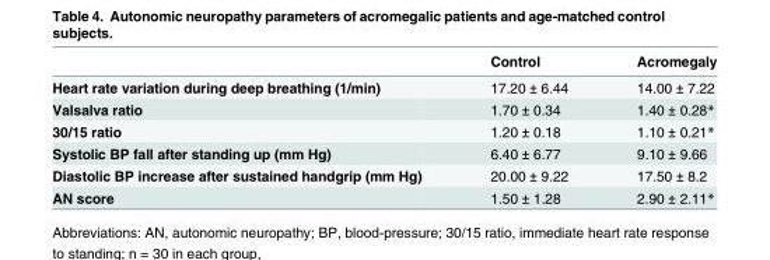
<table><thead><tr><td></td><td>Control</td><td>Acromegaly</td></tr></thead><tbody><tr><td>Heart rate variation during deep breathing (1/min)</td><td>17.20 ± 6.44</td><td>14.00 ± 7.22</td></tr><tr><td>Valsalva ratio</td><td>1.70 ± 0.34</td><td>1.40 ± 0.28*</td></tr><tr><td>30/15 ratio</td><td>1.20 ± 0.18</td><td>1.10 ± 0.21*</td></tr><tr><td>Systolic BP fall after standing up (mm Hg)</td><td>6.40 ± 6.77</td><td>9.10 ± 9.66</td></tr><tr><td>Diastolic BP increase after sustained handgrip (mm Hg)</td><td>20.00 ± 9.22</td><td>17.50 ± 8.2</td></tr><tr><td>AN score</td><td>1.50 ± 1.28</td><td>2.90 ± 2.11*</td></tr></tbody></table>